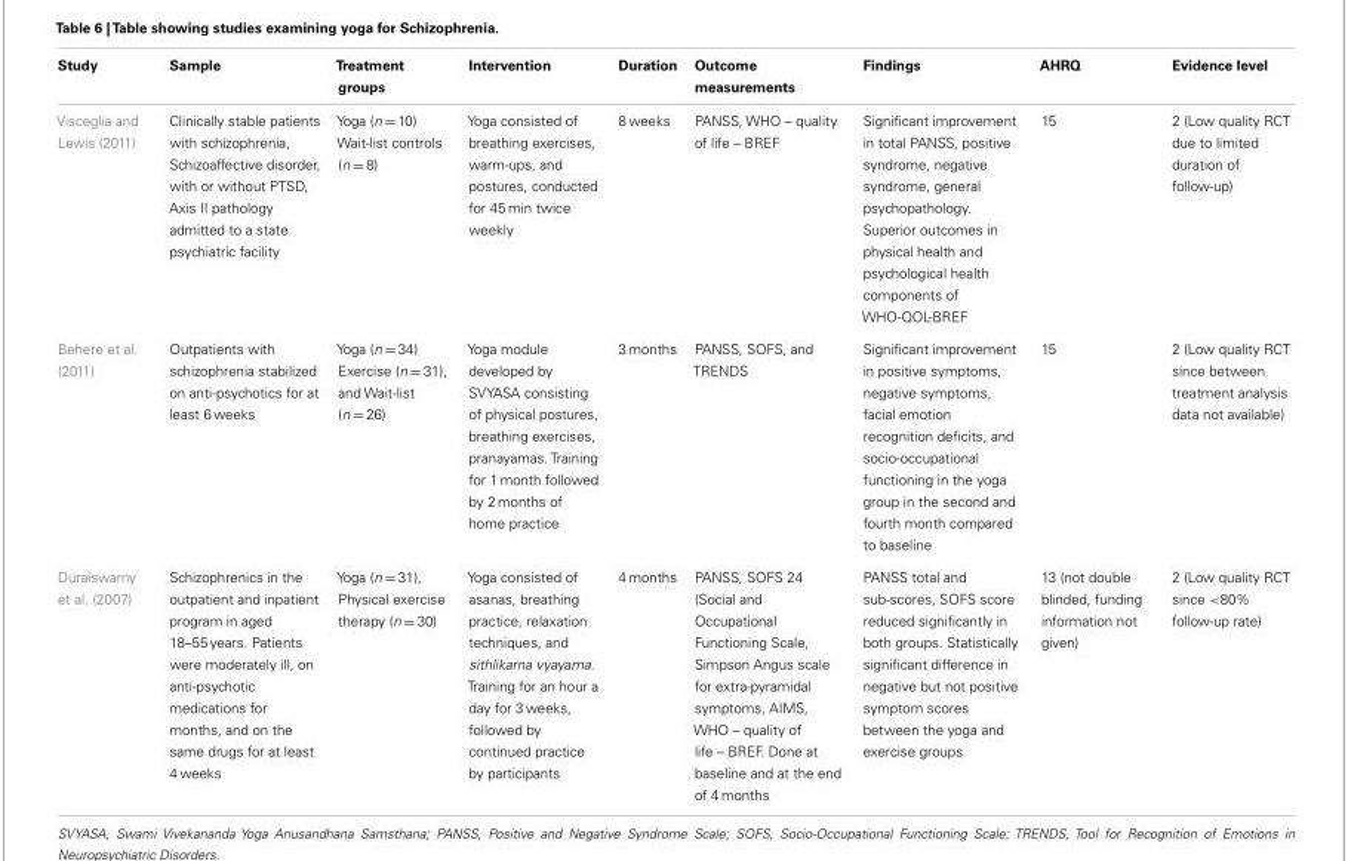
<table><thead><tr><td>Study</td><td>Sample</td><td>Treatment groups</td><td>Intervention</td><td>Duration</td><td>Outcome measurements</td><td>Findings</td><td>AHRQ</td><td>Evidence level</td></tr></thead><tbody><tr><td>Visceglia and Lewis (2011)</td><td>Clinically stable patients with schizophrenia, Schizoaffective disorder, with or without PTSD, Axis II pathology admitted to a state psychiatric facility</td><td>Yoga (n = 10) Wait-list controls (n = 8)</td><td>Yoga consisted of breathing exercises, warm-ups, and postures, conducted for 45 min twice weekly</td><td>8 weeks</td><td>PANSS, WHO – quality of life – BREF</td><td>Significant improvement in total PANSS, positive syndrome, negative syndrome, general psychopathology. Superior outcomes in physical health and psychological health components of WHO-QOL-BREF</td><td>15</td><td>2 (Low quality RCT due to limited duration of follow-up)</td></tr><tr><td>Behere et al. (2011)</td><td>Outpatients with schizophrenia stabilized on anti-psychotics for at least 6 weeks</td><td>Yoga (n = 34) Exercise (n = 31), and Wait-list (n = 26)</td><td>Yoga module developed by SVYASA consisting of physical postures, breathing exercises, pranayamas. Training for 1 month followed by 2 months of home practice</td><td>3 months</td><td>PANSS, SOFS, and TRENDS</td><td>Significant improvement in positive symptoms, negative symptoms, facial emotion recognition deficits, and socio-occupational functioning in the yoga group in the second and fourth month compared to baseline</td><td>15</td><td>2 (Low quality RCT since between treatment analysis data not available)</td></tr><tr><td>Duraiswamy et al. (2007)</td><td>Schizophrenics in the outpatient and inpatient program in aged 18–55 years. Patients were moderately ill, on anti-psychotic medications for months, and on the same drugs for at least 4 weeks</td><td>Yoga (n = 31), Physical exercise therapy (n = 30)</td><td>Yoga consisted of asanas, breathing practice, relaxation techniques, and sithlikarna vyayama. Training for an hour a day for 3 weeks, followed by continued practice by participants</td><td>4 months</td><td>PANSS, SOFS 24 (Social and Occupational Functioning Scale, Simpson Angus scale for extra-pyramidal symptoms, AIMS, WHO – quality of life – BREF. Done at baseline and at the end of 4 months</td><td>PANSS total and sub-scores, SOFS score reduced significantly in both groups. Statistically significant difference in negative but not positive symptom scores between the yoga and exercise groups</td><td>13 (not double blinded, funding information not given)</td><td>2 (Low quality RCT since &lt;80% follow-up rate)</td></tr></tbody></table>